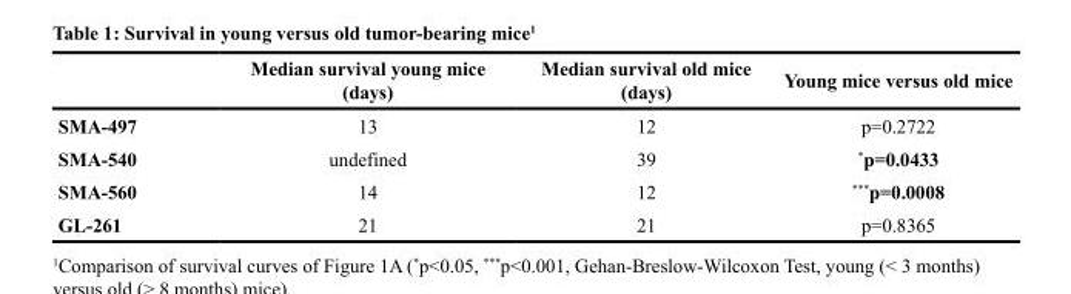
<table><thead><tr><td></td><td>Median survival young mice (days)</td><td>Median survival old mice (days)</td><td>Young mice versus old mice</td></tr></thead><tbody><tr><td>SMA-497</td><td>13</td><td>12</td><td>p=0.2722</td></tr><tr><td>SMA-540</td><td>undefined</td><td>39</td><td>*p=0.0433</td></tr><tr><td>SMA-560</td><td>14</td><td>12</td><td>***p=0.0008</td></tr><tr><td>GL-261</td><td>21</td><td>21</td><td>p=0.8365</td></tr></tbody></table>